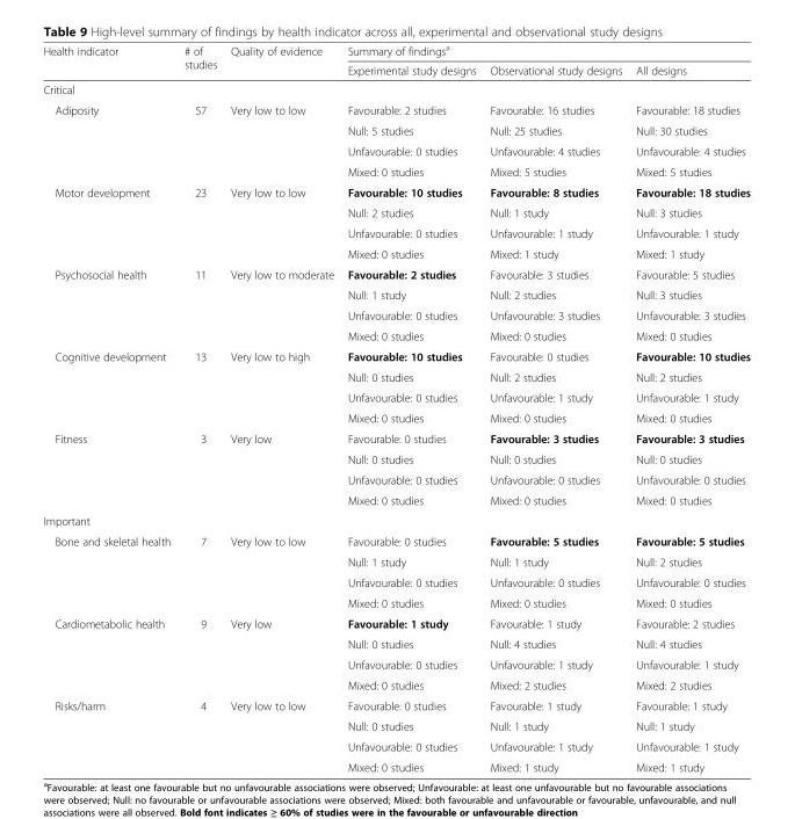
<table><thead><tr><td rowspan="2">Health indicator</td><td rowspan="2"># of studies</td><td rowspan="2">Quality of evidence</td><td colspan="3">Summary of findings<sup>a</sup></td></tr><tr><td>Experimental study designs</td><td>Observational study designs</td><td>All designs</td></tr></thead><tbody><tr><td colspan="6">Critical</td></tr><tr><td rowspan="4">Adiposity</td><td rowspan="4">57</td><td rowspan="4">Very low to low</td><td>Favourable: 2 studies</td><td>Favourable: 16 studies</td><td>Favourable: 18 studies</td></tr><tr><td>Null: 5 studies</td><td>Null: 25 studies</td><td>Null: 30 studies</td></tr><tr><td>Unfavourable: 0 studies</td><td>Unfavourable: 4 studies</td><td>Unfavourable: 4 studies</td></tr><tr><td>Mixed: 0 studies</td><td>Mixed: 5 studies</td><td>Mixed: 5 studies</td></tr><tr><td rowspan="4">Motor development</td><td rowspan="4">23</td><td rowspan="4">Very low to low</td><td>Favourable: 10 studies</td><td>Favourable: 8 studies</td><td>Favourable: 18 studies</td></tr><tr><td>Null: 2 studies</td><td>Null: 1 study</td><td>Null: 3 studies</td></tr><tr><td>Unfavourable: 0 studies</td><td>Unfavourable: 1 study</td><td>Unfavourable: 1 study</td></tr><tr><td>Mixed: 0 studies</td><td>Mixed: 1 study</td><td>Mixed: 1 study</td></tr><tr><td rowspan="4">Psychosocial health</td><td rowspan="4">11</td><td rowspan="4">Very low to moderate</td><td>Favourable: 2 studies</td><td>Favourable: 3 studies</td><td>Favourable: 5 studies</td></tr><tr><td>Null: 1 study</td><td>Null: 2 studies</td><td>Null: 3 studies</td></tr><tr><td>Unfavourable: 0 studies</td><td>Unfavourable: 3 studies</td><td>Unfavourable: 3 studies</td></tr><tr><td>Mixed: 0 studies</td><td>Mixed: 0 studies</td><td>Mixed: 0 studies</td></tr><tr><td rowspan="4">Cognitive development</td><td rowspan="4">13</td><td rowspan="4">Very low to high</td><td>Favourable: 10 studies</td><td>Favourable: 0 studies</td><td>Favourable: 10 studies</td></tr><tr><td>Null: 0 studies</td><td>Null: 2 studies</td><td>Null: 2 studies</td></tr><tr><td>Unfavourable: 0 studies</td><td>Unfavourable: 1 study</td><td>Unfavourable: 1 study</td></tr><tr><td>Mixed: 0 studies</td><td>Mixed: 0 studies</td><td>Mixed: 0 studies</td></tr><tr><td rowspan="4">Fitness</td><td rowspan="4">3</td><td rowspan="4">Very low</td><td>Favourable: 0 studies</td><td>Favourable: 3 studies</td><td>Favourable: 3 studies</td></tr><tr><td>Null: 0 studies</td><td>Null: 0 studies</td><td>Null: 0 studies</td></tr><tr><td>Unfavourable: 0 studies</td><td>Unfavourable: 0 studies</td><td>Unfavourable: 0 studies</td></tr><tr><td>Mixed: 0 studies</td><td>Mixed: 0 studies</td><td>Mixed: 0 studies</td></tr><tr><td colspan="6">Important</td></tr><tr><td rowspan="4">Bone and skeletal health</td><td rowspan="4">7</td><td rowspan="4">Very low to low</td><td>Favourable: 0 studies</td><td>Favourable: 5 studies</td><td>Favourable: 5 studies</td></tr><tr><td>Null: 1 study</td><td>Null: 1 study</td><td>Null: 2 studies</td></tr><tr><td>Unfavourable: 0 studies</td><td>Unfavourable: 0 studies</td><td>Unfavourable: 0 studies</td></tr><tr><td>Mixed: 0 studies</td><td>Mixed: 0 studies</td><td>Mixed: 0 studies</td></tr><tr><td rowspan="4">Cardiometabolic health</td><td rowspan="4">9</td><td rowspan="4">Very low</td><td>Favourable: 1 study</td><td>Favourable: 1 study</td><td>Favourable: 2 studies</td></tr><tr><td>Null: 0 studies</td><td>Null: 4 studies</td><td>Null: 4 studies</td></tr><tr><td>Unfavourable: 0 studies</td><td>Unfavourable: 1 study</td><td>Unfavourable: 1 study</td></tr><tr><td>Mixed: 0 studies</td><td>Mixed: 2 studies</td><td>Mixed: 2 studies</td></tr><tr><td rowspan="4">Risks/harm</td><td rowspan="4">4</td><td rowspan="4">Very low to low</td><td>Favourable: 0 studies</td><td>Favourable: 1 study</td><td>Favourable: 1 study</td></tr><tr><td>Null: 0 studies</td><td>Null: 1 study</td><td>Null: 1 study</td></tr><tr><td>Unfavourable: 0 studies</td><td>Unfavourable: 1 study</td><td>Unfavourable: 1 study</td></tr><tr><td>Mixed: 0 studies</td><td>Mixed: 1 study</td><td>Mixed: 1 study</td></tr></tbody></table>